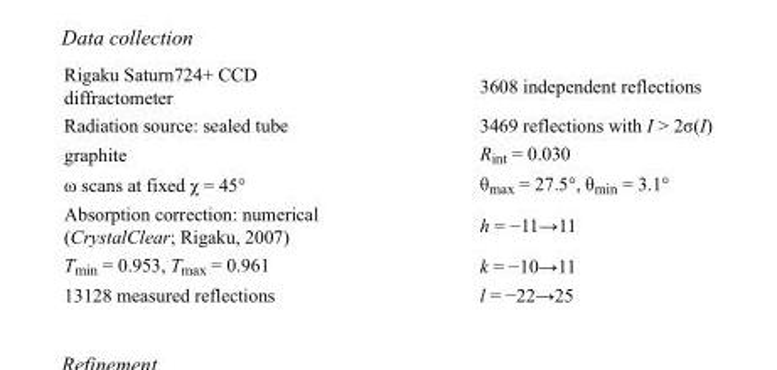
<table><tbody><tr><td>Rigaku Saturn724+ CCD diffractometer</td><td>3608 independent reflections</td></tr><tr><td>Radiation source: sealed tube</td><td>3469 reflections with I &gt; 2σ(I)</td></tr><tr><td>graphite</td><td>R<sub>int</sub> = 0.030</td></tr><tr><td>ω scans at fixed χ = 45°</td><td>θ<sub>max</sub> = 27.5°, θ<sub>min</sub> = 3.1°</td></tr><tr><td>Absorption correction: numerical (CrystalClear; Rigaku, 2007)</td><td>h = −11→11</td></tr><tr><td>T<sub>min</sub> = 0.953, T<sub>max</sub> = 0.961</td><td>k = −10→11</td></tr><tr><td>13128 measured reflections</td><td>l = −22→25</td></tr></tbody></table>